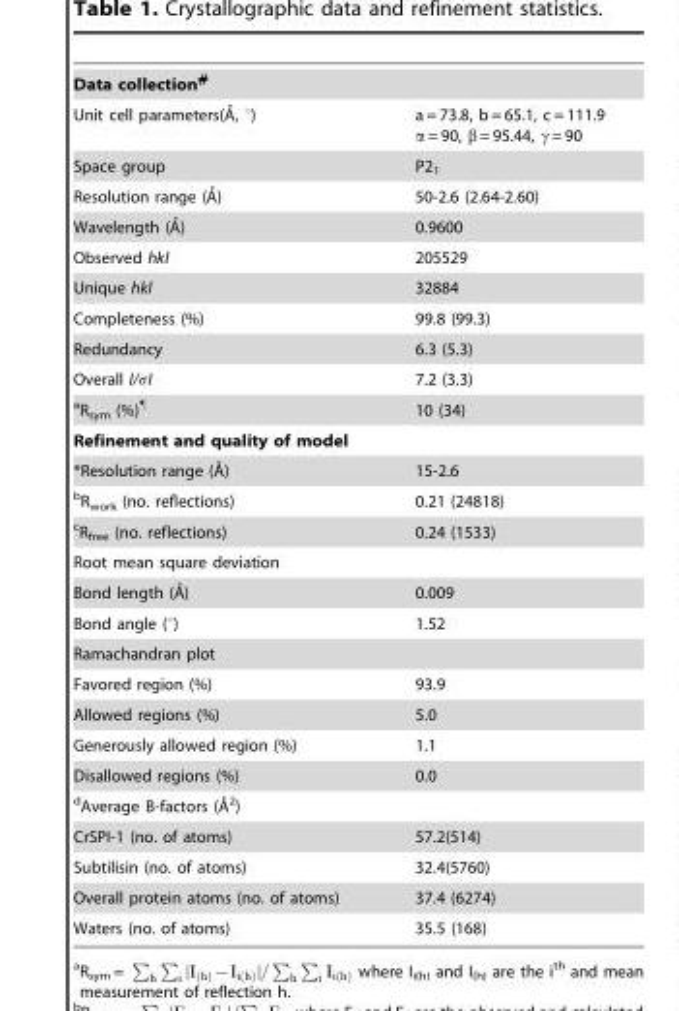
<table><tbody><tr><td colspan="2">Data collection#</td></tr><tr><td>Unit cell parameters(A˚, u)</td><td>a = 73.8, b = 65.1, c = 111.9 α = 90, β = 95.44, γ = 90</td></tr><tr><td>Space group</td><td>P2<sub>1</sub></td></tr><tr><td>Resolution range (A˚)</td><td>50-2.6 (2.64-2.60)</td></tr><tr><td>Wavelength (A˚)</td><td>0.9600</td></tr><tr><td>Observed hkl</td><td>205529</td></tr><tr><td>Unique hkl</td><td>32884</td></tr><tr><td>Completeness (%)</td><td>99.8 (99.3)</td></tr><tr><td>Redundancy</td><td>6.3 (5.3)</td></tr><tr><td>Overall I/σI</td><td>7.2 (3.3)</td></tr><tr><td>aR<sub>sym</sub> (%)¶</td><td>10 (34)</td></tr><tr><td colspan="2">Refinement and quality of model</td></tr><tr><td>*Resolution range (A˚)</td><td>15-2.6</td></tr><tr><td>bR<sub>work</sub> (no. reflections)</td><td>0.21 (24818)</td></tr><tr><td>cR<sub>free</sub> (no. reflections)</td><td>0.24 (1533)</td></tr><tr><td colspan="2">Root mean square deviation</td></tr><tr><td>Bond length (A˚)</td><td>0.009</td></tr><tr><td>Bond angle (°)</td><td>1.52</td></tr><tr><td colspan="2">Ramachandran plot</td></tr><tr><td>Favored region (%)</td><td>93.9</td></tr><tr><td>Allowed regions (%)</td><td>5.0</td></tr><tr><td>Generously allowed region (%)</td><td>1.1</td></tr><tr><td>Disallowed regions (%)</td><td>0.0</td></tr><tr><td colspan="2">dAverage B-factors (A˚ 2)</td></tr><tr><td>CrSPI-1 (no. of atoms)</td><td>57.2(514)</td></tr><tr><td>Subtilisin (no. of atoms)</td><td>32.4(5760)</td></tr><tr><td>Overall protein atoms (no. of atoms)</td><td>37.4 (6274)</td></tr><tr><td>Waters (no. of atoms)</td><td>35.5 (168)</td></tr></tbody></table>